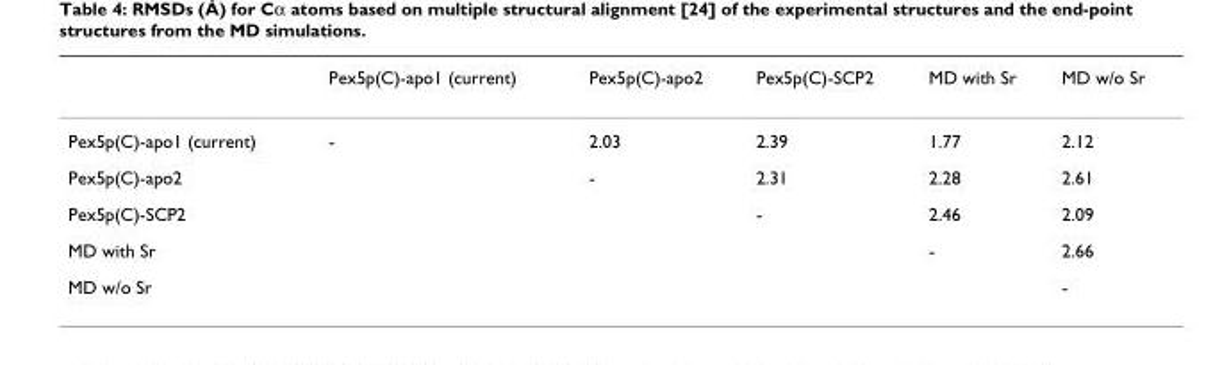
<table><thead><tr><td></td><td>Pex5p(C)-apo1 (current)</td><td>Pex5p(C)-apo2</td><td>Pex5p(C)-SCP2</td><td>MD with Sr</td><td>MD w/o Sr</td></tr></thead><tbody><tr><td>Pex5p(C)-apo1 (current)</td><td>-</td><td>2.03</td><td>2.39</td><td>1.77</td><td>2.12</td></tr><tr><td>Pex5p(C)-apo2</td><td></td><td>-</td><td>2.31</td><td>2.28</td><td>2.61</td></tr><tr><td>Pex5p(C)-SCP2</td><td></td><td></td><td>-</td><td>2.46</td><td>2.09</td></tr><tr><td>MD with Sr</td><td></td><td></td><td></td><td>-</td><td>2.66</td></tr><tr><td>MD w/o Sr</td><td></td><td></td><td></td><td></td><td>-</td></tr></tbody></table>